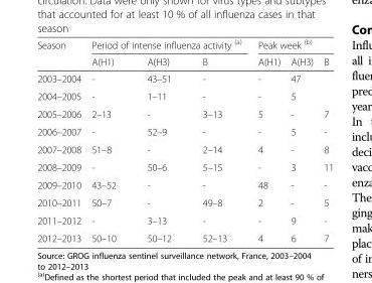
<table><thead><tr><td rowspan="2">Season</td><td colspan="3">Period of intense influenza activity <sup>(a)</sup></td><td colspan="3">Peak week <sup>(b)</sup></td></tr><tr><td>A(H1)</td><td>A(H3)</td><td>B</td><td>A(H1)</td><td>A(H3)</td><td>B</td></tr></thead><tbody><tr><td>2003–2004</td><td>-</td><td>43–51</td><td>-</td><td>-</td><td>47</td><td></td></tr><tr><td>2004–2005</td><td>-</td><td>1–11</td><td>-</td><td>-</td><td>5</td><td></td></tr><tr><td>2005–2006</td><td>2–13</td><td>-</td><td>3–13</td><td>5</td><td>-</td><td>7</td></tr><tr><td>2006–2007</td><td>-</td><td>52–9</td><td>-</td><td>-</td><td>5</td><td>-</td></tr><tr><td>2007–2008</td><td>51–8</td><td>-</td><td>2–14</td><td>4</td><td>-</td><td>8</td></tr><tr><td>2008–2009</td><td>-</td><td>50–6</td><td>5–15</td><td>-</td><td>3</td><td>11</td></tr><tr><td>2009–2010</td><td>43–52</td><td>-</td><td>-</td><td>48</td><td>-</td><td>-</td></tr><tr><td>2010–2011</td><td>50–7</td><td>-</td><td>49–8</td><td>2</td><td>-</td><td>5</td></tr><tr><td>2011–2012</td><td>-</td><td>3–13</td><td>-</td><td>-</td><td>9</td><td>-</td></tr><tr><td>2012–2013</td><td>50–10</td><td>50–12</td><td>52–13</td><td>4</td><td>6</td><td>7</td></tr></tbody></table>